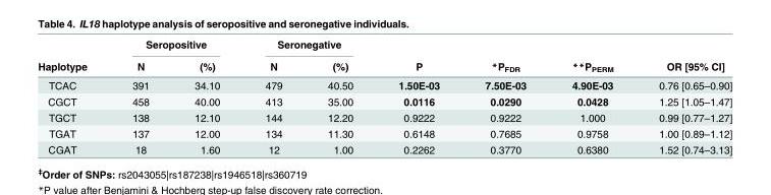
<table><thead><tr><td rowspan="2">Haplotype</td><td colspan="2">Seropositive</td><td colspan="2">Seronegative</td><td rowspan="2">P</td><td rowspan="2">*P<sub>FDR</sub></td><td rowspan="2">**P<sub>PERM</sub></td><td rowspan="2">OR [95% CI]</td></tr><tr><td>N</td><td>(%)</td><td>N</td><td>(%)</td></tr></thead><tbody><tr><td>TCAC</td><td>391</td><td>34.10</td><td>479</td><td>40.50</td><td>1.50E-03</td><td>7.50E-03</td><td>4.90E-03</td><td>0.76 [0.65–0.90]</td></tr><tr><td>CGCT</td><td>458</td><td>40.00</td><td>413</td><td>35.00</td><td>0.0116</td><td>0.0290</td><td>0.0428</td><td>1.25 [1.05–1.47]</td></tr><tr><td>TGCT</td><td>138</td><td>12.10</td><td>144</td><td>12.20</td><td>0.9222</td><td>0.9222</td><td>1.000</td><td>0.99 [0.77–1.27]</td></tr><tr><td>TGAT</td><td>137</td><td>12.00</td><td>134</td><td>11.30</td><td>0.6148</td><td>0.7685</td><td>0.9758</td><td>1.00 [0.89–1.12]</td></tr><tr><td>CGAT</td><td>18</td><td>1.60</td><td>12</td><td>1.00</td><td>0.2262</td><td>0.3770</td><td>0.6380</td><td>1.52 [0.74–3.13]</td></tr></tbody></table>